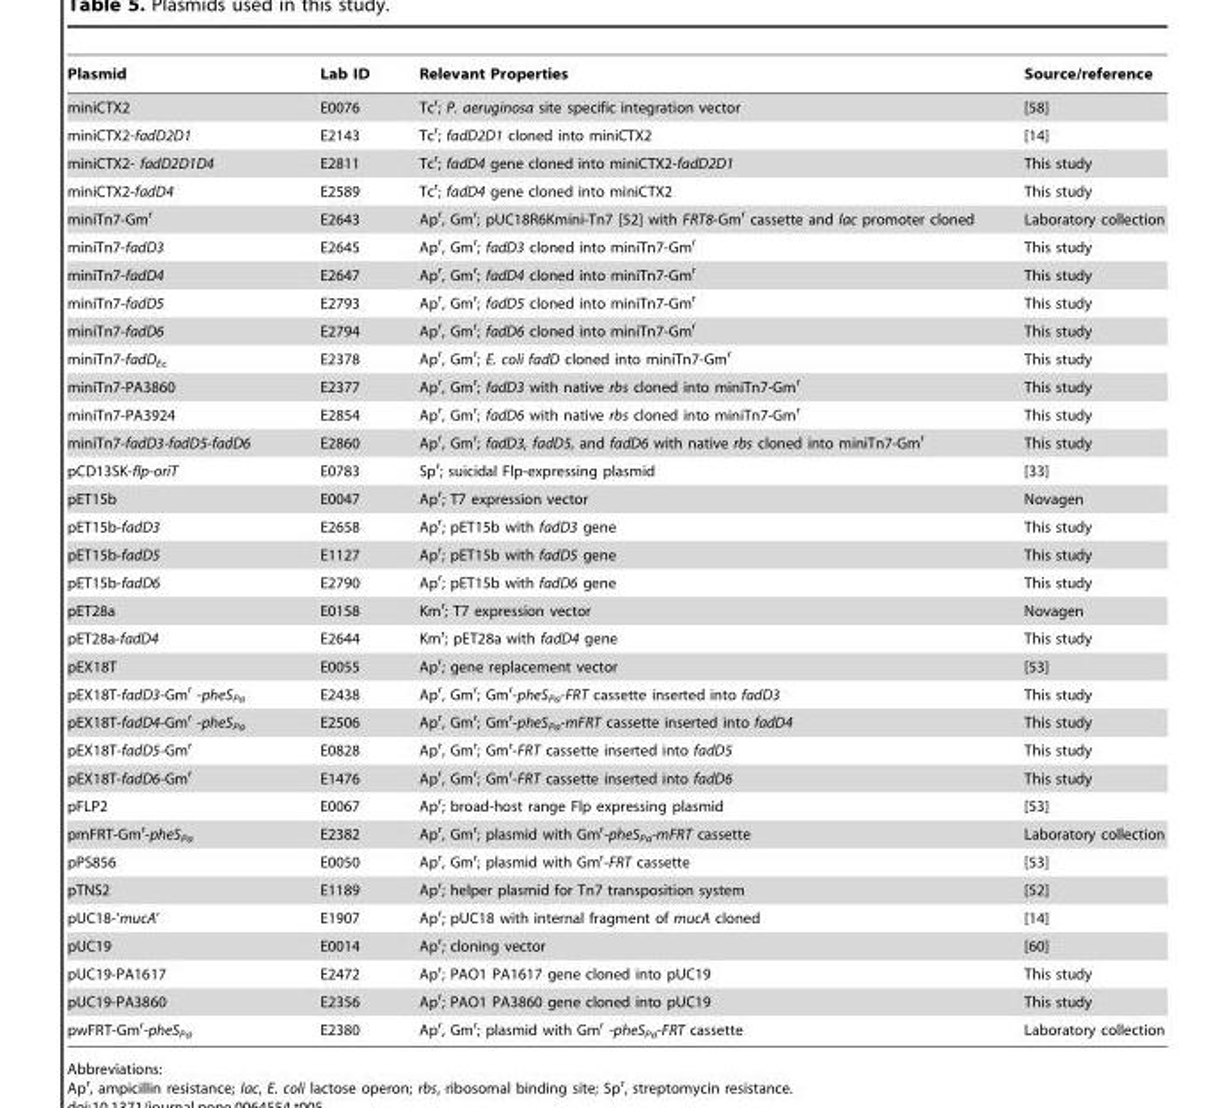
<table><thead><tr><td>Plasmid</td><td>Lab ID</td><td>Relevant Properties</td><td>Source/reference</td></tr></thead><tbody><tr><td>miniCTX2</td><td>E0076</td><td>Tc<sup>r</sup>; P. aeruginosa site specific integration vector</td><td>[58]</td></tr><tr><td>miniCTX2-fadD2D1</td><td>E2143</td><td>Tc<sup>r</sup>; fadD2D1 cloned into miniCTX2</td><td>[14]</td></tr><tr><td>miniCTX2- fadD2D1D4</td><td>E2811</td><td>Tc<sup>r</sup>; fadD4 gene cloned into miniCTX2-fadD2D1</td><td>This study</td></tr><tr><td>miniCTX2-fadD4</td><td>E2589</td><td>Tc<sup>r</sup>; fadD4 gene cloned into miniCTX2</td><td>This study</td></tr><tr><td>miniTn7-Gm<sup>r</sup></td><td>E2643</td><td>Ap<sup>r</sup>, Gm<sup>r</sup>; pUC18R6Kmini-Tn7 [52] with FRT8-Gm<sup>r</sup> cassette and lac promoter cloned</td><td>Laboratory collection</td></tr><tr><td>miniTn7-fadD3</td><td>E2645</td><td>Ap<sup>r</sup>, Gm<sup>r</sup>; fadD3 cloned into miniTn7-Gm<sup>r</sup></td><td>This study</td></tr><tr><td>miniTn7-fadD4</td><td>E2647</td><td>Ap<sup>r</sup>, Gm<sup>r</sup>; fadD4 cloned into miniTn7-Gm<sup>r</sup></td><td>This study</td></tr><tr><td>miniTn7-fadD5</td><td>E2793</td><td>Ap<sup>r</sup>, Gm<sup>r</sup>; fadD5 cloned into miniTn7-Gm<sup>r</sup></td><td>This study</td></tr><tr><td>miniTn7-fadD6</td><td>E2794</td><td>Ap<sup>r</sup>, Gm<sup>r</sup>; fadD6 cloned into miniTn7-Gm<sup>r</sup></td><td>This study</td></tr><tr><td>miniTn7-fadD<sub>Ec</sub></td><td>E2378</td><td>Ap<sup>r</sup>, Gm<sup>r</sup>; E. coli fadD cloned into miniTn7-Gm<sup>r</sup></td><td>This study</td></tr><tr><td>miniTn7-PA3860</td><td>E2377</td><td>Ap<sup>r</sup>, Gm<sup>r</sup>; fadD3 with native rbs cloned into miniTn7-Gm<sup>r</sup></td><td>This study</td></tr><tr><td>miniTn7-PA3924</td><td>E2854</td><td>Ap<sup>r</sup>, Gm<sup>r</sup>; fadD6 with native rbs cloned into miniTn7-Gm<sup>r</sup></td><td>This study</td></tr><tr><td>miniTn7-fadD3-fadD5-fadD6</td><td>E2860</td><td>Ap<sup>r</sup>, Gm<sup>r</sup>; fadD3, fadD5, and fadD6 with native rbs cloned into miniTn7-Gm<sup>r</sup></td><td>This study</td></tr><tr><td>pCD13SK-flp-oriT</td><td>E0783</td><td>Sp<sup>r</sup>; suicidal Flp-expressing plasmid</td><td>[33]</td></tr><tr><td>pET15b</td><td>E0047</td><td>Ap<sup>r</sup>; T7 expression vector</td><td>Novagen</td></tr><tr><td>pET15b-fadD3</td><td>E2658</td><td>Ap<sup>r</sup>; pET15b with fadD3 gene</td><td>This study</td></tr><tr><td>pET15b-fadD5</td><td>E1127</td><td>Ap<sup>r</sup>; pET15b with fadD5 gene</td><td>This study</td></tr><tr><td>pET15b-fadD6</td><td>E2790</td><td>Ap<sup>r</sup>; pET15b with fadD6 gene</td><td>This study</td></tr><tr><td>pET28a</td><td>E0158</td><td>Km<sup>r</sup>; T7 expression vector</td><td>Novagen</td></tr><tr><td>pET28a-fadD4</td><td>E2644</td><td>Km<sup>r</sup>; pET28a with fadD4 gene</td><td>This study</td></tr><tr><td>pEX18T</td><td>E0055</td><td>Ap<sup>r</sup>; gene replacement vector</td><td>[53]</td></tr><tr><td>pEX18T-fadD3-Gm<sup>r</sup> -pheS<sub>Pa</sub></td><td>E2438</td><td>Ap<sup>r</sup>, Gm<sup>r</sup>; Gm<sup>r</sup>-pheS<sub>Pa</sub>-FRT cassette inserted into fadD3</td><td>This study</td></tr><tr><td>pEX18T-fadD4-Gm<sup>r</sup> -pheS<sub>Pa</sub></td><td>E2506</td><td>Ap<sup>r</sup>, Gm<sup>r</sup>; Gm<sup>r</sup>-pheS<sub>Pa</sub>-mFRT cassette inserted into fadD4</td><td>This study</td></tr><tr><td>pEX18T-fadD5-Gm<sup>r</sup></td><td>E0828</td><td>Ap<sup>r</sup>, Gm<sup>r</sup>; Gm<sup>r</sup>-FRT cassette inserted into fadD5</td><td>This study</td></tr><tr><td>pEX18T-fadD6-Gm<sup>r</sup></td><td>E1476</td><td>Ap<sup>r</sup>, Gm<sup>r</sup>; Gm<sup>r</sup>-FRT cassette inserted into fadD6</td><td>This study</td></tr><tr><td>pFLP2</td><td>E0067</td><td>Ap<sup>r</sup>; broad-host range Flp expressing plasmid</td><td>[53]</td></tr><tr><td>pmFRT-Gm<sup>r</sup>-pheS<sub>Pa</sub></td><td>E2382</td><td>Ap<sup>r</sup>, Gm<sup>r</sup>; plasmid with Gm<sup>r</sup>-pheS<sub>Pa</sub>-mFRT cassette</td><td>Laboratory collection</td></tr><tr><td>pPS856</td><td>E0050</td><td>Ap<sup>r</sup>, Gm<sup>r</sup>; plasmid with Gm<sup>r</sup>-FRT cassette</td><td>[53]</td></tr><tr><td>pTNS2</td><td>E1189</td><td>Ap<sup>r</sup>; helper plasmid for Tn7 transposition system</td><td>[52]</td></tr><tr><td>pUC18-’mucA’</td><td>E1907</td><td>Ap<sup>r</sup>; pUC18 with internal fragment of mucA cloned</td><td>[14]</td></tr><tr><td>pUC19</td><td>E0014</td><td>Ap<sup>r</sup>; cloning vector</td><td>[60]</td></tr><tr><td>pUC19-PA1617</td><td>E2472</td><td>Ap<sup>r</sup>; PAO1 PA1617 gene cloned into pUC19</td><td>This study</td></tr><tr><td>pUC19-PA3860</td><td>E2356</td><td>Ap<sup>r</sup>; PAO1 PA3860 gene cloned into pUC19</td><td>This study</td></tr><tr><td>pwFRT-Gm<sup>r</sup>-pheS<sub>Pa</sub></td><td>E2380</td><td>Ap<sup>r</sup>, Gm<sup>r</sup>; plasmid with Gm<sup>r</sup> -pheS<sub>Pa</sub>-FRT cassette</td><td>Laboratory collection</td></tr></tbody></table>